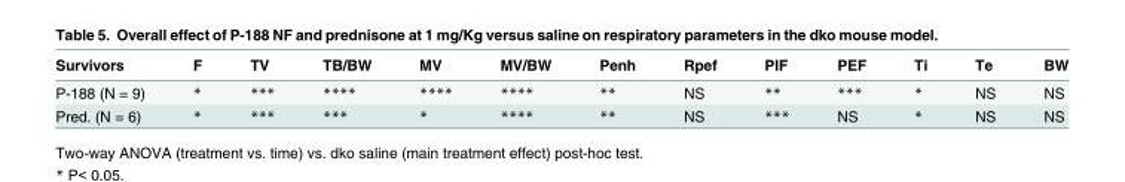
<table><thead><tr><td>Survivors</td><td>F</td><td>TV</td><td>TB/BW</td><td>MV</td><td>MV/BW</td><td>Penh</td><td>Rpef</td><td>PIF</td><td>PEF</td><td>Ti</td><td>Te</td><td>BW</td></tr></thead><tbody><tr><td>P-188 (N = 9)</td><td>*</td><td>***</td><td>****</td><td>****</td><td>****</td><td>**</td><td>NS</td><td>**</td><td>***</td><td>*</td><td>NS</td><td>NS</td></tr><tr><td>Pred. (N = 6)</td><td>*</td><td>***</td><td>***</td><td>*</td><td>****</td><td>**</td><td>NS</td><td>***</td><td>NS</td><td>*</td><td>NS</td><td>NS</td></tr></tbody></table>